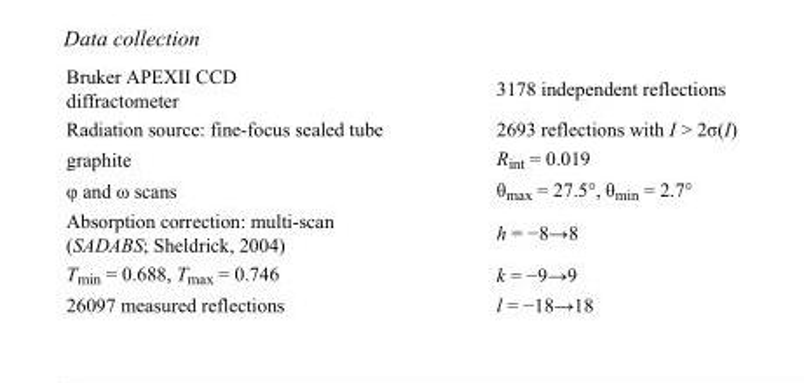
<table><tbody><tr><td>Bruker APEXII CCD diffractometer</td><td>3178 independent reflections</td></tr><tr><td>Radiation source: fine-focus sealed tube</td><td>2693 reflections with I &gt; 2σ(I)</td></tr><tr><td>graphite</td><td>R<sub>int</sub> = 0.019</td></tr><tr><td>φ and ω scans</td><td>θ<sub>max</sub> = 27.5°, θ<sub>min</sub> = 2.7°</td></tr><tr><td>Absorption correction: multi-scan (SADABS; Sheldrick, 2004)</td><td>h = −8→8</td></tr><tr><td>T<sub>min</sub> = 0.688, T<sub>max</sub> = 0.746</td><td>k = −9→9</td></tr><tr><td>26097 measured reflections</td><td>l = −18→18</td></tr></tbody></table>